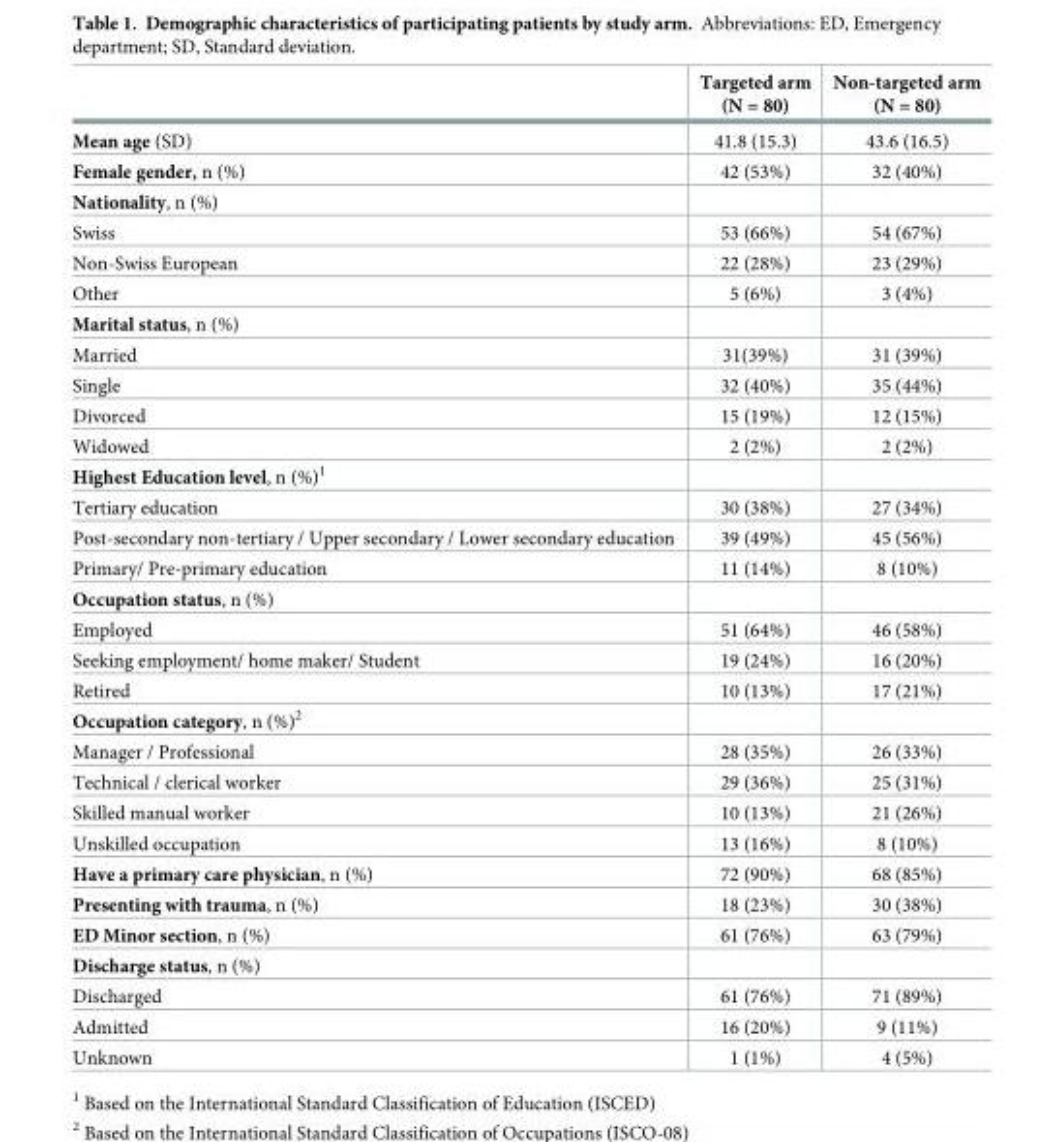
<table><thead><tr><td></td><td>Targeted arm (N = 80)</td><td>Non-targeted arm (N = 80)</td></tr></thead><tbody><tr><td>Mean age (SD)</td><td>41.8 (15.3)</td><td>43.6 (16.5)</td></tr><tr><td>Female gender, n (%)</td><td>42 (53%)</td><td>32 (40%)</td></tr><tr><td colspan="3">Nationality, n (%)</td></tr><tr><td>Swiss</td><td>53 (66%)</td><td>54 (67%)</td></tr><tr><td>Non-Swiss European</td><td>22 (28%)</td><td>23 (29%)</td></tr><tr><td>Other</td><td>5 (6%)</td><td>3 (4%)</td></tr><tr><td colspan="3">Marital status, n (%)</td></tr><tr><td>Married</td><td>31(39%)</td><td>31 (39%)</td></tr><tr><td>Single</td><td>32 (40%)</td><td>35 (44%)</td></tr><tr><td>Divorced</td><td>15 (19%)</td><td>12 (15%)</td></tr><tr><td>Widowed</td><td>2 (2%)</td><td>2 (2%)</td></tr><tr><td colspan="3">Highest Education level, n (%)<sup>1</sup></td></tr><tr><td>Tertiary education</td><td>30 (38%)</td><td>27 (34%)</td></tr><tr><td>Post-secondary non-tertiary / Upper secondary / Lower secondary education</td><td>39 (49%)</td><td>45 (56%)</td></tr><tr><td>Primary/ Pre-primary education</td><td>11 (14%)</td><td>8 (10%)</td></tr><tr><td colspan="3">Occupation status, n (%)</td></tr><tr><td>Employed</td><td>51 (64%)</td><td>46 (58%)</td></tr><tr><td>Seeking employment/ home maker/ Student</td><td>19 (24%)</td><td>16 (20%)</td></tr><tr><td>Retired</td><td>10 (13%)</td><td>17 (21%)</td></tr><tr><td colspan="3">Occupation category, n (%)<sup>2</sup></td></tr><tr><td>Manager / Professional</td><td>28 (35%)</td><td>26 (33%)</td></tr><tr><td>Technical / clerical worker</td><td>29 (36%)</td><td>25 (31%)</td></tr><tr><td>Skilled manual worker</td><td>10 (13%)</td><td>21 (26%)</td></tr><tr><td>Unskilled occupation</td><td>13 (16%)</td><td>8 (10%)</td></tr><tr><td>Have a primary care physician, n (%)</td><td>72 (90%)</td><td>68 (85%)</td></tr><tr><td>Presenting with trauma, n (%)</td><td>18 (23%)</td><td>30 (38%)</td></tr><tr><td>ED Minor section, n (%)</td><td>61 (76%)</td><td>63 (79%)</td></tr><tr><td colspan="3">Discharge status, n (%)</td></tr><tr><td>Discharged</td><td>61 (76%)</td><td>71 (89%)</td></tr><tr><td>Admitted</td><td>16 (20%)</td><td>9 (11%)</td></tr><tr><td>Unknown</td><td>1 (1%)</td><td>4 (5%)</td></tr></tbody></table>